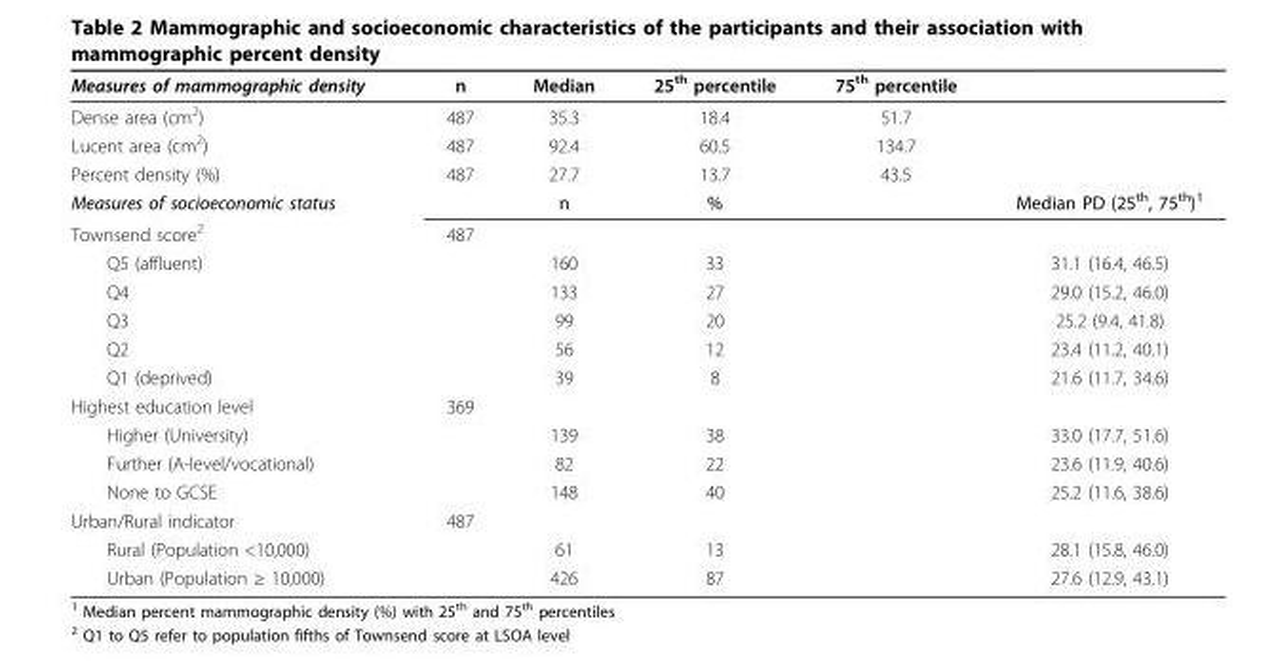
<table><thead><tr><td>Measures of mammographic density</td><td>n</td><td>Median</td><td>25<sup>th</sup> percentile</td><td>75<sup>th</sup> percentile</td><td></td></tr></thead><tbody><tr><td>Dense area (cm<sup>2</sup>)</td><td>487</td><td>35.3</td><td>18.4</td><td>51.7</td><td></td></tr><tr><td>Lucent area (cm<sup>2</sup>)</td><td>487</td><td>92.4</td><td>60.5</td><td>134.7</td><td></td></tr><tr><td>Percent density (%)</td><td>487</td><td>27.7</td><td>13.7</td><td>43.5</td><td></td></tr><tr><td>Measures of socioeconomic status</td><td></td><td>n</td><td>%</td><td></td><td>Median PD (25<sup>th</sup>, 75<sup>th</sup>)<sup>1</sup></td></tr><tr><td>Townsend score<sup>2</sup></td><td>487</td><td></td><td></td><td></td><td></td></tr><tr><td>Q5 (affluent)</td><td></td><td>160</td><td>33</td><td></td><td>31.1 (16.4, 46.5)</td></tr><tr><td>Q4</td><td></td><td>133</td><td>27</td><td></td><td>29.0 (15.2, 46.0)</td></tr><tr><td>Q3</td><td></td><td>99</td><td>20</td><td></td><td>25.2 (9.4, 41.8)</td></tr><tr><td>Q2</td><td></td><td>56</td><td>12</td><td></td><td>23.4 (11.2, 40.1)</td></tr><tr><td>Q1 (deprived)</td><td></td><td>39</td><td>8</td><td></td><td>21.6 (11.7, 34.6)</td></tr><tr><td>Highest education level</td><td>369</td><td></td><td></td><td></td><td></td></tr><tr><td>Higher (University)</td><td></td><td>139</td><td>38</td><td></td><td>33.0 (17.7, 51.6)</td></tr><tr><td>Further (A-level/vocational)</td><td></td><td>82</td><td>22</td><td></td><td>23.6 (11.9, 40.6)</td></tr><tr><td>None to GCSE</td><td></td><td>148</td><td>40</td><td></td><td>25.2 (11.6, 38.6)</td></tr><tr><td>Urban/Rural indicator</td><td>487</td><td></td><td></td><td></td><td></td></tr><tr><td>Rural (Population &lt;10,000)</td><td></td><td>61</td><td>13</td><td></td><td>28.1 (15.8, 46.0)</td></tr><tr><td>Urban (Population ≥ 10,000)</td><td></td><td>426</td><td>87</td><td></td><td>27.6 (12.9, 43.1)</td></tr></tbody></table>